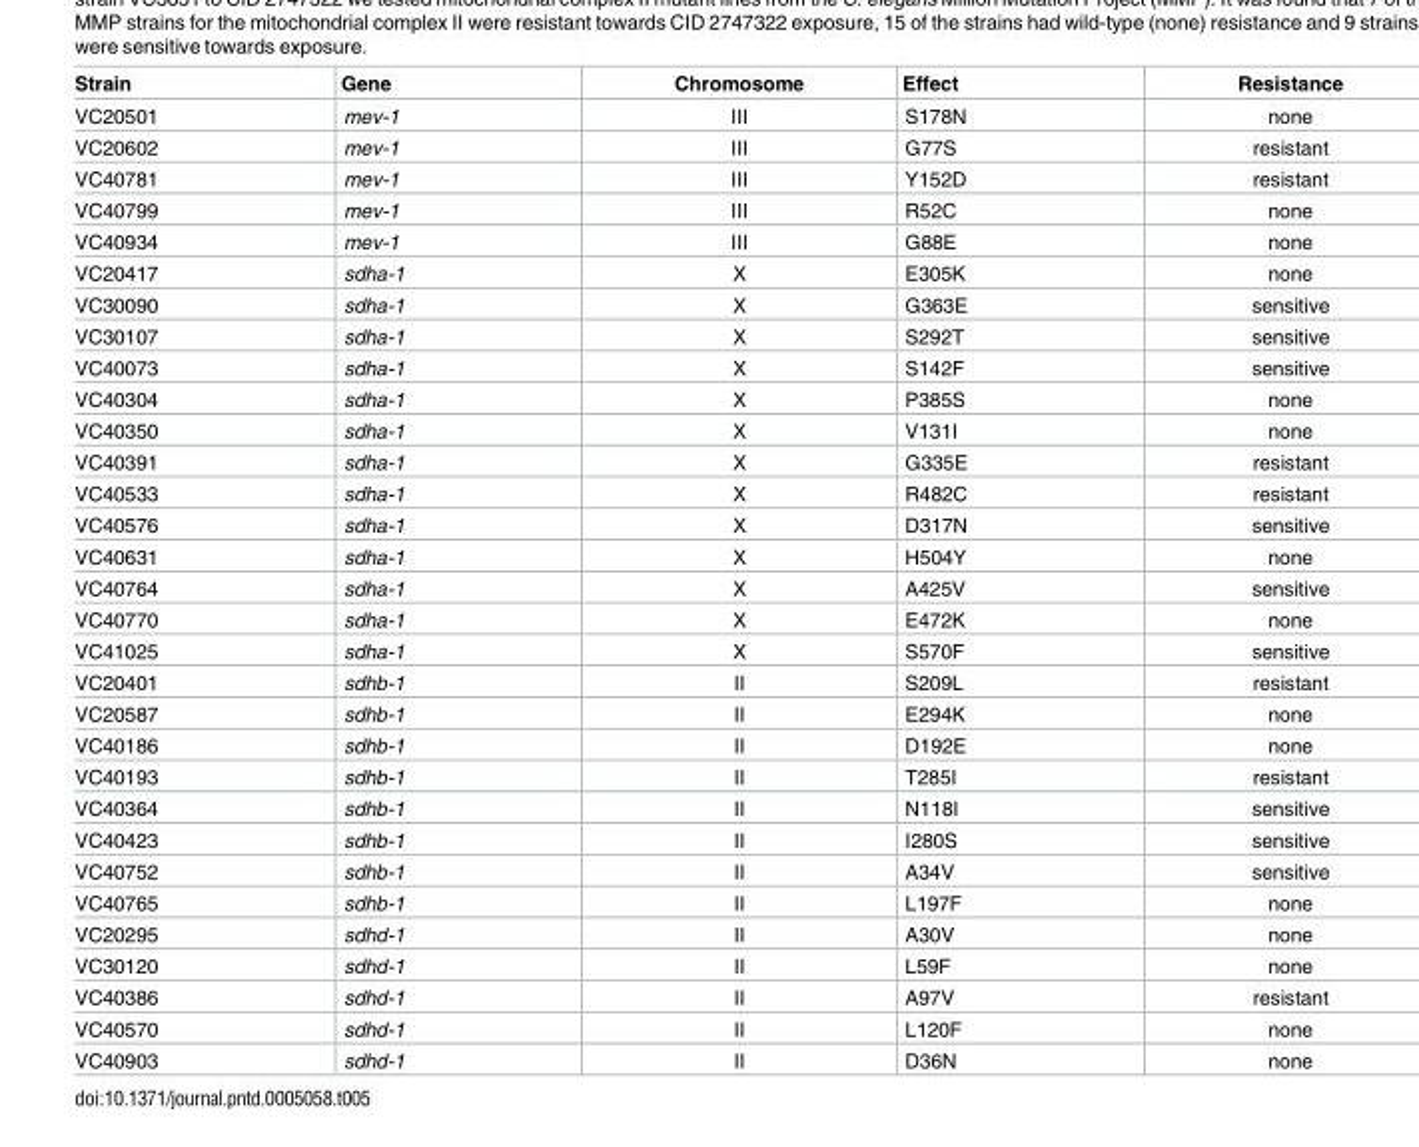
<table><thead><tr><td>Strain</td><td>Gene</td><td>Chromosome</td><td>Effect</td><td>Resistance</td></tr></thead><tbody><tr><td>VC20501</td><td>mev-1</td><td>III</td><td>S178N</td><td>none</td></tr><tr><td>VC20602</td><td>mev-1</td><td>III</td><td>G77S</td><td>resistant</td></tr><tr><td>VC40781</td><td>mev-1</td><td>III</td><td>Y152D</td><td>resistant</td></tr><tr><td>VC40799</td><td>mev-1</td><td>III</td><td>R52C</td><td>none</td></tr><tr><td>VC40934</td><td>mev-1</td><td>III</td><td>G88E</td><td>none</td></tr><tr><td>VC20417</td><td>sdha-1</td><td>X</td><td>E305K</td><td>none</td></tr><tr><td>VC30090</td><td>sdha-1</td><td>X</td><td>G363E</td><td>sensitive</td></tr><tr><td>VC30107</td><td>sdha-1</td><td>X</td><td>S292T</td><td>sensitive</td></tr><tr><td>VC40073</td><td>sdha-1</td><td>X</td><td>S142F</td><td>sensitive</td></tr><tr><td>VC40304</td><td>sdha-1</td><td>X</td><td>P385S</td><td>none</td></tr><tr><td>VC40350</td><td>sdha-1</td><td>X</td><td>V131I</td><td>none</td></tr><tr><td>VC40391</td><td>sdha-1</td><td>X</td><td>G335E</td><td>resistant</td></tr><tr><td>VC40533</td><td>sdha-1</td><td>X</td><td>R482C</td><td>resistant</td></tr><tr><td>VC40576</td><td>sdha-1</td><td>X</td><td>D317N</td><td>sensitive</td></tr><tr><td>VC40631</td><td>sdha-1</td><td>X</td><td>H504Y</td><td>none</td></tr><tr><td>VC40764</td><td>sdha-1</td><td>X</td><td>A425V</td><td>sensitive</td></tr><tr><td>VC40770</td><td>sdha-1</td><td>X</td><td>E472K</td><td>none</td></tr><tr><td>VC41025</td><td>sdha-1</td><td>X</td><td>S570F</td><td>sensitive</td></tr><tr><td>VC20401</td><td>sdhb-1</td><td>II</td><td>S209L</td><td>resistant</td></tr><tr><td>VC20587</td><td>sdhb-1</td><td>II</td><td>E294K</td><td>none</td></tr><tr><td>VC40186</td><td>sdhb-1</td><td>II</td><td>D192E</td><td>none</td></tr><tr><td>VC40193</td><td>sdhb-1</td><td>II</td><td>T285I</td><td>resistant</td></tr><tr><td>VC40364</td><td>sdhb-1</td><td>II</td><td>N118I</td><td>sensitive</td></tr><tr><td>VC40423</td><td>sdhb-1</td><td>II</td><td>I280S</td><td>sensitive</td></tr><tr><td>VC40752</td><td>sdhb-1</td><td>II</td><td>A34V</td><td>sensitive</td></tr><tr><td>VC40765</td><td>sdhb-1</td><td>II</td><td>L197F</td><td>none</td></tr><tr><td>VC20295</td><td>sdhd-1</td><td>II</td><td>A30V</td><td>none</td></tr><tr><td>VC30120</td><td>sdhd-1</td><td>II</td><td>L59F</td><td>none</td></tr><tr><td>VC40386</td><td>sdhd-1</td><td>II</td><td>A97V</td><td>resistant</td></tr><tr><td>VC40570</td><td>sdhd-1</td><td>II</td><td>L120F</td><td>none</td></tr><tr><td>VC40903</td><td>sdhd-1</td><td>II</td><td>D36N</td><td>none</td></tr></tbody></table>